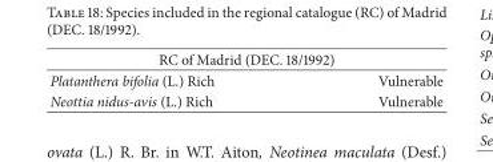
<table><thead><tr><td colspan="2">RC of Madrid (DEC. 18/1992)</td></tr><tr><td>Platanthera bifolia (L.) Rich</td><td>Vulnerable</td></tr></thead><tbody><tr><td>Neottia nidus-avis (L.) Rich</td><td>Vulnerable</td></tr></tbody></table>